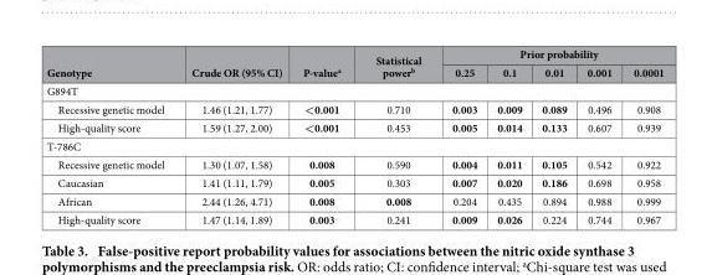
<table><thead><tr><td rowspan="2">Genotype</td><td rowspan="2">Crude OR (95% CI)</td><td rowspan="2">P-value<sup>a</sup></td><td rowspan="2">Statistical power<sup>b</sup></td><td colspan="5">Prior probability</td></tr><tr><td>0.25</td><td>0.1</td><td>0.01</td><td>0.001</td><td>0.0001</td></tr></thead><tbody><tr><td colspan="9">G894T</td></tr><tr><td>Recessive genetic model</td><td>1.46 (1.21, 1.77)</td><td>&lt;0.001</td><td>0.710</td><td>0.003</td><td>0.009</td><td>0.089</td><td>0.496</td><td>0.908</td></tr><tr><td>High-quality score</td><td>1.59 (1.27, 2.00)</td><td>&lt;0.001</td><td>0.453</td><td>0.005</td><td>0.014</td><td>0.133</td><td>0.607</td><td>0.939</td></tr><tr><td colspan="9">T-786C</td></tr><tr><td>Recessive genetic model</td><td>1.30 (1.07, 1.58)</td><td>0.008</td><td>0.590</td><td>0.004</td><td>0.011</td><td>0.105</td><td>0.542</td><td>0.922</td></tr><tr><td>Caucasian</td><td>1.41 (1.11, 1.79)</td><td>0.005</td><td>0.303</td><td>0.007</td><td>0.020</td><td>0.186</td><td>0.698</td><td>0.958</td></tr><tr><td>African</td><td>2.44 (1.26, 4.71)</td><td>0.008</td><td>0.008</td><td>0.204</td><td>0.435</td><td>0.894</td><td>0.988</td><td>0.999</td></tr><tr><td>High-quality score</td><td>1.47 (1.14, 1.89)</td><td>0.003</td><td>0.241</td><td>0.009</td><td>0.026</td><td>0.224</td><td>0.744</td><td>0.967</td></tr></tbody></table>